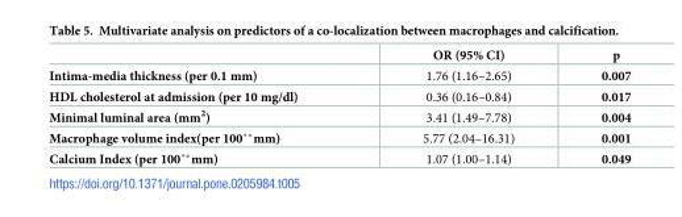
<table><thead><tr><td></td><td>OR (95% CI)</td><td>p</td></tr></thead><tbody><tr><td>Intima-media thickness (per 0.1 mm)</td><td>1.76 (1.16–2.65)</td><td>0.007</td></tr><tr><td>HDL cholesterol at admission (per 10 mg/dl)</td><td>0.36 (0.16–0.84)</td><td>0.017</td></tr><tr><td>Minimal luminal area (mm<sup>2</sup>)</td><td>3.41 (1.49–7.78)</td><td>0.004</td></tr><tr><td>Macrophage volume index(per 100˚*mm)</td><td>5.77 (2.04–16.31)</td><td>0.001</td></tr><tr><td>Calcium Index (per 100˚*mm)</td><td>1.07 (1.00–1.14)</td><td>0.049</td></tr></tbody></table>